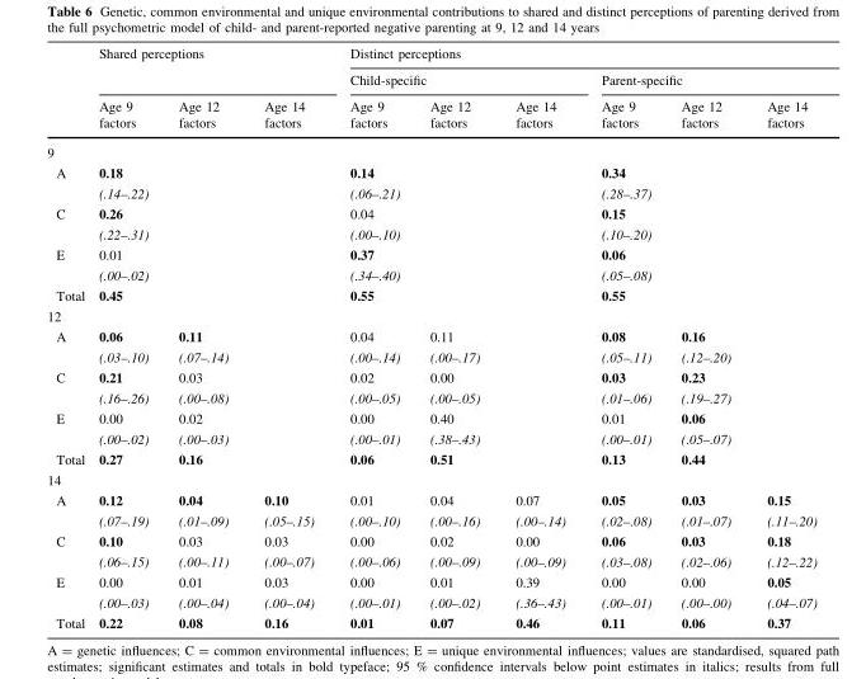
<table><thead><tr><td rowspan="3"></td><td rowspan="2" colspan="3">Shared perceptions</td><td colspan="6">Distinct perceptions</td></tr><tr><td colspan="3">Child-specific</td><td colspan="3">Parent-specific</td></tr><tr><td>Age 9 factors</td><td>Age 12 factors</td><td>Age 14 factors</td><td>Age 9 factors</td><td>Age 12 factors</td><td>Age 14 factors</td><td>Age 9 factors</td><td>Age 12 factors</td><td>Age 14 factors</td></tr></thead><tbody><tr><td colspan="10">9</td></tr><tr><td>A</td><td>0.18 (.14–.22)</td><td></td><td></td><td>0.14 (.06–.21)</td><td></td><td></td><td>0.34 (.28–.37)</td><td></td><td></td></tr><tr><td>C</td><td>0.26 (.22–.31)</td><td></td><td></td><td>0.04 (.00–.10)</td><td></td><td></td><td>0.15 (.10–.20)</td><td></td><td></td></tr><tr><td>E</td><td>0.01 (.00–.02)</td><td></td><td></td><td>0.37 (.34–.40)</td><td></td><td></td><td>0.06 (.05–.08)</td><td></td><td></td></tr><tr><td>Total</td><td>0.45</td><td></td><td></td><td>0.55</td><td></td><td></td><td>0.55</td><td></td><td></td></tr><tr><td colspan="10">12</td></tr><tr><td>A</td><td>0.06 (.03–.10)</td><td>0.11 (.07–.14)</td><td></td><td>0.04 (.00–.14)</td><td>0.11 (.00–.17)</td><td></td><td>0.08 (.05–.11)</td><td>0.16 (.12–.20)</td><td></td></tr><tr><td>C</td><td>0.21 (.16–.26)</td><td>0.03 (.00–.08)</td><td></td><td>0.02 (.00–.05)</td><td>0.00 (.00–.05)</td><td></td><td>0.03 (.01–.06)</td><td>0.23 (.19–.27)</td><td></td></tr><tr><td>E</td><td>0.00 (.00–.02)</td><td>0.02 (.00–.03)</td><td></td><td>0.00 (.00–.01)</td><td>0.40 (.38–.43)</td><td></td><td>0.01 (.00–.01)</td><td>0.06 (.05–.07)</td><td></td></tr><tr><td>Total</td><td>0.27</td><td>0.16</td><td></td><td>0.06</td><td>0.51</td><td></td><td>0.13</td><td>0.44</td><td></td></tr><tr><td colspan="10">14</td></tr><tr><td>A</td><td>0.12 (.07–.19)</td><td>0.04 (.01–.09)</td><td>0.10 (.05–.15)</td><td>0.01 (.00–.10)</td><td>0.04 (.00–.16)</td><td>0.07 (.00–.14)</td><td>0.05 (.02–.08)</td><td>0.03 (.01–.07)</td><td>0.15 (.11–.20)</td></tr><tr><td>C</td><td>0.10 (.06–.15)</td><td>0.03 (.00–.11)</td><td>0.03 (.00–.07)</td><td>0.00 (.00–.06)</td><td>0.02 (.00–.09)</td><td>0.00 (.00–.09)</td><td>0.06 (.03–.08)</td><td>0.03 (.02–.06)</td><td>0.18 (.12–.22)</td></tr><tr><td>E</td><td>0.00 (.00–.03)</td><td>0.01 (.00–.04)</td><td>0.03 (.00–.04)</td><td>0.00 (.00–.01)</td><td>0.01 (.00–.02)</td><td>0.39 (.36–.43)</td><td>0.00 (.00–.01)</td><td>0.00 (.00–.00)</td><td>0.05 (.04–.07)</td></tr><tr><td>Total</td><td>0.22</td><td>0.08</td><td>0.16</td><td>0.01</td><td>0.07</td><td>0.46</td><td>0.11</td><td>0.06</td><td>0.37</td></tr></tbody></table>